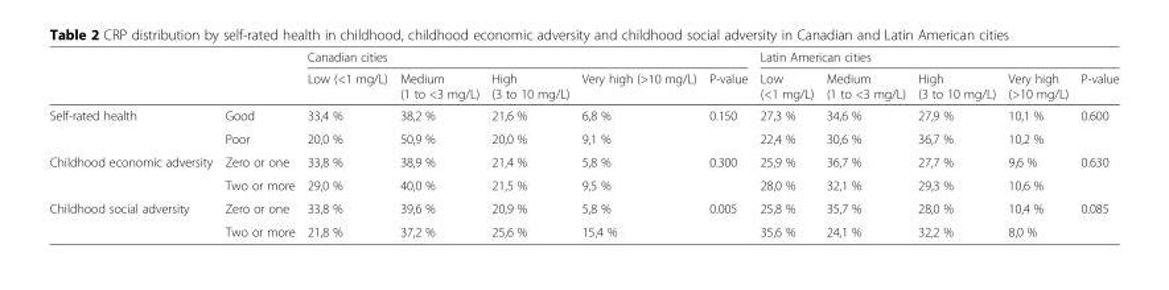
<table><thead><tr><td rowspan="2"></td><td rowspan="2"></td><td colspan="5">Canadian cities</td><td colspan="5">Latin American cities</td></tr><tr><td>Low (&lt;1 mg/L)</td><td>Medium (1 to &lt;3 mg/L)</td><td>High (3 to 10 mg/L)</td><td>Very high (&gt;10 mg/L)</td><td>P-value</td><td>Low (&lt;1 mg/L)</td><td>Medium (1 to &lt;3 mg/L)</td><td>High (3 to 10 mg/L)</td><td>Very high (&gt;10 mg/L)</td><td>P-value</td></tr></thead><tbody><tr><td rowspan="2">Self-rated health</td><td>Good</td><td>33,4 %</td><td>38,2 %</td><td>21,6 %</td><td>6,8 %</td><td rowspan="2">0.150</td><td>27,3 %</td><td>34,6 %</td><td>27,9 %</td><td>10,1 %</td><td rowspan="2">0.600</td></tr><tr><td>Poor</td><td>20,0 %</td><td>50,9 %</td><td>20,0 %</td><td>9,1 %</td><td>22,4 %</td><td>30,6 %</td><td>36,7 %</td><td>10,2 %</td></tr><tr><td rowspan="2">Childhood economic adversity</td><td>Zero or one</td><td>33,8 %</td><td>38,9 %</td><td>21,4 %</td><td>5,8 %</td><td rowspan="2">0.300</td><td>25,9 %</td><td>36,7 %</td><td>27,7 %</td><td>9,6 %</td><td rowspan="2">0.630</td></tr><tr><td>Two or more</td><td>29,0 %</td><td>40,0 %</td><td>21,5 %</td><td>9,5 %</td><td>28,0 %</td><td>32,1 %</td><td>29,3 %</td><td>10,6 %</td></tr><tr><td rowspan="2">Childhood social adversity</td><td>Zero or one</td><td>33,8 %</td><td>39,6 %</td><td>20,9 %</td><td>5,8 %</td><td rowspan="2">0.005</td><td>25,8 %</td><td>35,7 %</td><td>28,0 %</td><td>10,4 %</td><td rowspan="2">0.085</td></tr><tr><td>Two or more</td><td>21,8 %</td><td>37,2 %</td><td>25,6 %</td><td>15,4 %</td><td>35,6 %</td><td>24,1 %</td><td>32,2 %</td><td>8,0 %</td></tr></tbody></table>